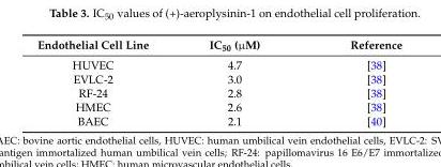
<table><thead><tr><td>Endothelial Cell Line</td><td>IC<sub>50</sub> (µM)</td><td>Reference</td></tr></thead><tbody><tr><td>HUVEC</td><td>4.7</td><td>[38]</td></tr><tr><td>EVLC-2</td><td>3.0</td><td>[38]</td></tr><tr><td>RF-24</td><td>2.8</td><td>[38]</td></tr><tr><td>HMEC</td><td>2.6</td><td>[38]</td></tr><tr><td>BAEC</td><td>2.1</td><td>[40]</td></tr></tbody></table>